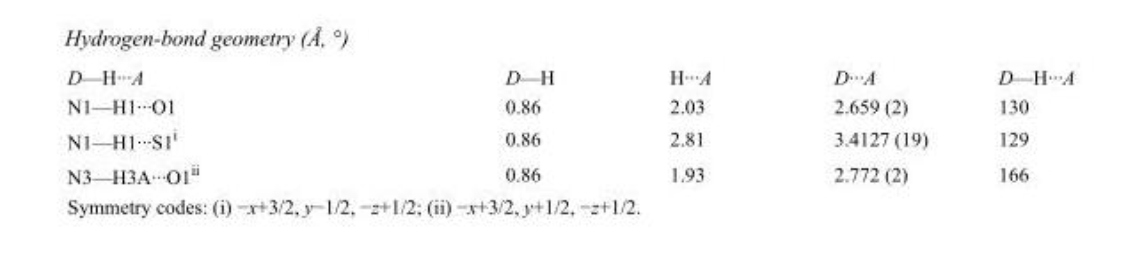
<table><tbody><tr><td>D—H···A</td><td>D—H</td><td>H···A</td><td>D···A</td><td>D—H···A</td></tr><tr><td>N1—H1···O1</td><td>0.86</td><td>2.03</td><td>2.659 (2)</td><td>130</td></tr><tr><td>N1—H1···S1<sup>i</sup></td><td>0.86</td><td>2.81</td><td>3.4127 (19)</td><td>129</td></tr><tr><td>N3—H3A···O1<sup>ii</sup></td><td>0.86</td><td>1.93</td><td>2.772 (2)</td><td>166</td></tr></tbody></table>